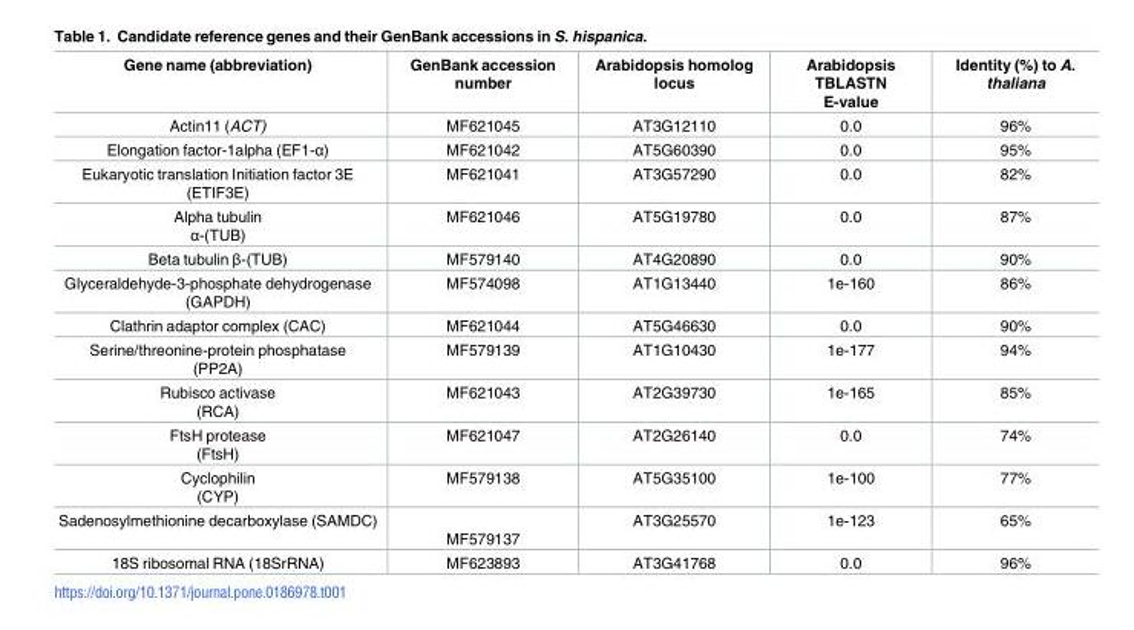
<table><thead><tr><td>Gene name (abbreviation)</td><td>GenBank accession number</td><td>Arabidopsis homolog locus</td><td>Arabidopsis TBLASTN E-value</td><td>Identity (%) to A. thaliana</td></tr></thead><tbody><tr><td>Actin11 (ACT)</td><td>MF621045</td><td>AT3G12110</td><td>0.0</td><td>96%</td></tr><tr><td>Elongation factor-1alpha (EF1-α)</td><td>MF621042</td><td>AT5G60390</td><td>0.0</td><td>95%</td></tr><tr><td>Eukaryotic translation Initiation factor 3E (ETIF3E)</td><td>MF621041</td><td>AT3G57290</td><td>0.0</td><td>82%</td></tr><tr><td>Alpha tubulin α-(TUB)</td><td>MF621046</td><td>AT5G19780</td><td>0.0</td><td>87%</td></tr><tr><td>Beta tubulin β-(TUB)</td><td>MF579140</td><td>AT4G20890</td><td>0.0</td><td>90%</td></tr><tr><td>Glyceraldehyde-3-phosphate dehydrogenase (GAPDH)</td><td>MF574098</td><td>AT1G13440</td><td>1e-160</td><td>86%</td></tr><tr><td>Clathrin adaptor complex (CAC)</td><td>MF621044</td><td>AT5G46630</td><td>0.0</td><td>90%</td></tr><tr><td>Serine/threonine-protein phosphatase (PP2A)</td><td>MF579139</td><td>AT1G10430</td><td>1e-177</td><td>94%</td></tr><tr><td>Rubisco activase (RCA)</td><td>MF621043</td><td>AT2G39730</td><td>1e-165</td><td>85%</td></tr><tr><td>FtsH protease (FtsH)</td><td>MF621047</td><td>AT2G26140</td><td>0.0</td><td>74%</td></tr><tr><td>Cyclophilin (CYP)</td><td>MF579138</td><td>AT5G35100</td><td>1e-100</td><td>77%</td></tr><tr><td>Sadenosylmethionine decarboxylase (SAMDC)</td><td>MF579137</td><td>AT3G25570</td><td>1e-123</td><td>65%</td></tr><tr><td>18S ribosomal RNA (18SrRNA)</td><td>MF623893</td><td>AT3G41768</td><td>0.0</td><td>96%</td></tr></tbody></table>